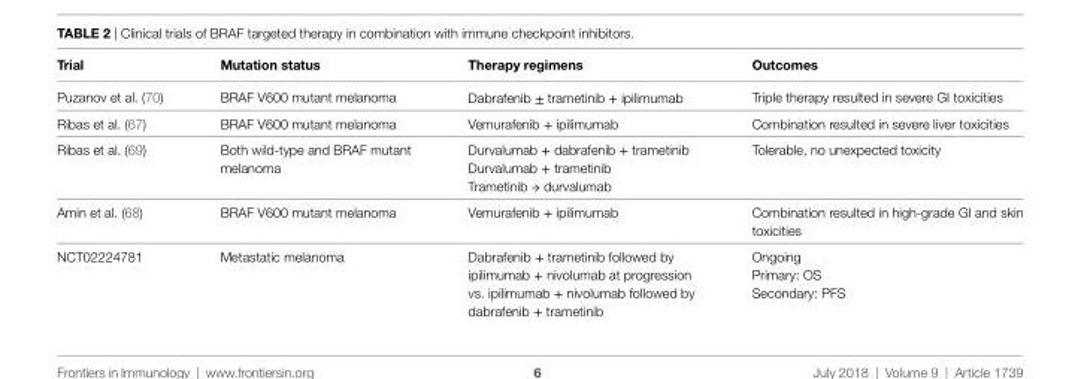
<table><thead><tr><td>Trial</td><td>Mutation status</td><td>Therapy regimens</td><td>Outcomes</td></tr></thead><tbody><tr><td>Puzanov et al. (70)</td><td>BRAF V600 mutant melanoma</td><td>Dabrafenib ± trametinib + ipilimumab</td><td>Triple therapy resulted in severe GI toxicities</td></tr><tr><td>Ribas et al. (67)</td><td>BRAF V600 mutant melanoma</td><td>Vemurafenib + ipilimumab</td><td>Combination resulted in severe liver toxicities</td></tr><tr><td>Ribas et al. (69)</td><td>Both wild-type and BRAF mutant melanoma</td><td>Durvalumab + dabrafenib + trametinib Durvalumab + trametinib Trametinib → durvalumab</td><td>Tolerable, no unexpected toxicity</td></tr><tr><td>Amin et al. (68)</td><td>BRAF V600 mutant melanoma</td><td>Vemurafenib + ipilimumab</td><td>Combination resulted in high-grade GI and skin toxicities</td></tr><tr><td>NCT02224781</td><td>Metastatic melanoma</td><td>Dabrafenib + trametinib followed by ipilimumab + nivolumab at progression vs. ipilimumab + nivolumab followed by dabrafenib + trametinib</td><td>Ongoing Primary: OS Secondary: PFS</td></tr></tbody></table>